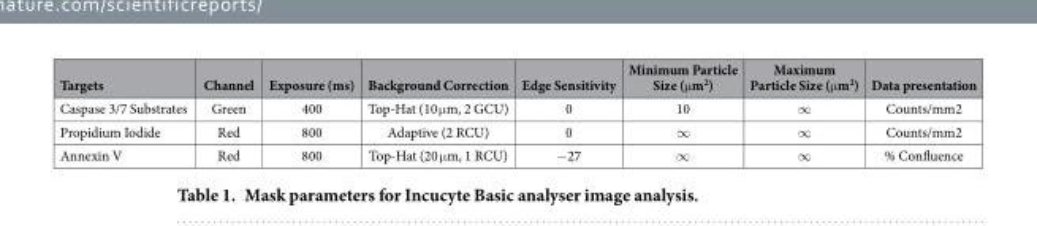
<table><thead><tr><td>Targets</td><td>Channel</td><td>Exposure (ms)</td><td>Background Correction</td><td>Edge Sensitivity</td><td>Minimum Particle Size (μ m<sup>2</sup>)</td><td>Maximum Particle Size (μ m<sup>2</sup>)</td><td>Data presentation</td></tr></thead><tbody><tr><td>Caspase 3/7 Substrates</td><td>Green</td><td>400</td><td>Top-Hat (10 μ m, 2 GCU)</td><td>0</td><td>10</td><td>∞</td><td>Counts/mm2</td></tr><tr><td>Propidium Iodide</td><td>Red</td><td>800</td><td>Adaptive (2 RCU)</td><td>0</td><td>∞</td><td>∞</td><td>Counts/mm2</td></tr><tr><td>Annexin V</td><td>Red</td><td>800</td><td>Top-Hat (20 μ m, 1 RCU)</td><td>− 27</td><td>∞</td><td>∞</td><td>% Confluence</td></tr></tbody></table>